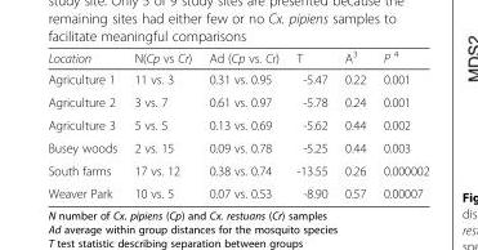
<table><thead><tr><td>Location</td><td>N(Cp vs Cr)</td><td>Ad (Cp vs. Cr)</td><td>T</td><td>A<sup>3</sup></td><td>P <sup>4</sup></td></tr></thead><tbody><tr><td>Agriculture 1</td><td>11 vs. 3</td><td>0.31 vs. 0.95</td><td>-5.47</td><td>0.22</td><td>0.001</td></tr><tr><td>Agriculture 2</td><td>3 vs. 7</td><td>0.61 vs. 0.97</td><td>-5.78</td><td>0.24</td><td>0.001</td></tr><tr><td>Agriculture 3</td><td>5 vs. 5</td><td>0.13 vs. 0.69</td><td>-5.62</td><td>0.44</td><td>0.002</td></tr><tr><td>Busey woods</td><td>2 vs. 15</td><td>0.09 vs. 0.78</td><td>-5.25</td><td>0.44</td><td>0.003</td></tr><tr><td>South farms</td><td>17 vs. 12</td><td>0.38 vs. 0.74</td><td>-13.55</td><td>0.26</td><td>0.000002</td></tr><tr><td>Weaver Park</td><td>10 vs. 5</td><td>0.07 vs. 0.53</td><td>-8.90</td><td>0.57</td><td>0.00007</td></tr></tbody></table>